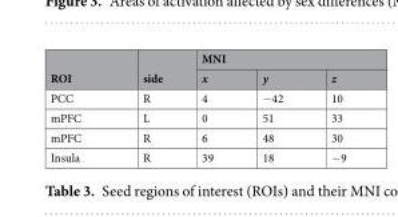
<table><thead><tr><td rowspan="2">ROI</td><td rowspan="2">side</td><td colspan="3">MNI</td></tr><tr><td>x</td><td>y</td><td>z</td></tr></thead><tbody><tr><td>PCC</td><td>R</td><td>4</td><td>−42</td><td>10</td></tr><tr><td>mPFC</td><td>L</td><td>0</td><td>51</td><td>33</td></tr><tr><td>mPFC</td><td>R</td><td>6</td><td>48</td><td>30</td></tr><tr><td>Insula</td><td>R</td><td>39</td><td>18</td><td>−9</td></tr></tbody></table>